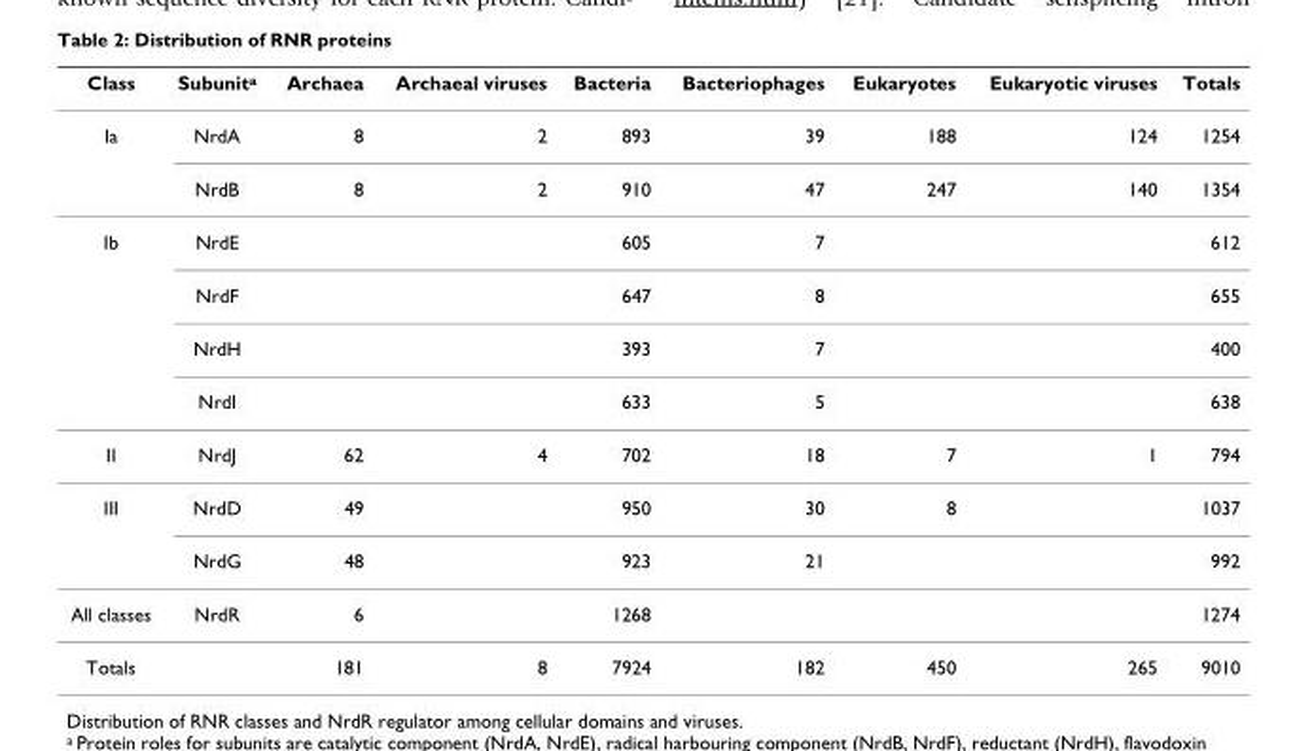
<table><thead><tr><td>Class</td><td>Subunit<sup>a</sup></td><td>Archaea</td><td>Archaeal viruses</td><td>Bacteria</td><td>Bacteriophages</td><td>Eukaryotes</td><td>Eukaryotic viruses</td><td>Totals</td></tr></thead><tbody><tr><td rowspan="2">Ia</td><td>NrdA</td><td>8</td><td>2</td><td>893</td><td>39</td><td>188</td><td>124</td><td>1254</td></tr><tr><td>NrdB</td><td>8</td><td>2</td><td>910</td><td>47</td><td>247</td><td>140</td><td>1354</td></tr><tr><td rowspan="4">Ib</td><td>NrdE</td><td></td><td></td><td>605</td><td>7</td><td></td><td></td><td>612</td></tr><tr><td>NrdF</td><td></td><td></td><td>647</td><td>8</td><td></td><td></td><td>655</td></tr><tr><td>NrdH</td><td></td><td></td><td>393</td><td>7</td><td></td><td></td><td>400</td></tr><tr><td>NrdI</td><td></td><td></td><td>633</td><td>5</td><td></td><td></td><td>638</td></tr><tr><td>II</td><td>NrdJ</td><td>62</td><td>4</td><td>702</td><td>18</td><td>7</td><td>1</td><td>794</td></tr><tr><td rowspan="2">III</td><td>NrdD</td><td>49</td><td></td><td>950</td><td>30</td><td>8</td><td></td><td>1037</td></tr><tr><td>NrdG</td><td>48</td><td></td><td>923</td><td>21</td><td></td><td></td><td>992</td></tr><tr><td>All classes</td><td>NrdR</td><td>6</td><td></td><td>1268</td><td></td><td></td><td></td><td>1274</td></tr><tr><td>Totals</td><td></td><td>181</td><td>8</td><td>7924</td><td>182</td><td>450</td><td>265</td><td>9010</td></tr></tbody></table>